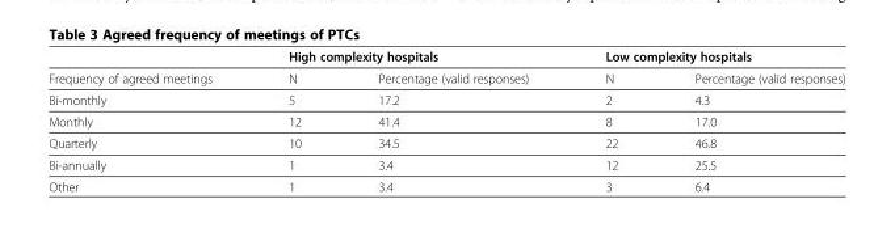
<table><thead><tr><td rowspan="2">Frequency of agreed meetings</td><td colspan="2">High complexity hospitals</td><td colspan="2">Low complexity hospitals</td></tr><tr><td>N</td><td>Percentage (valid responses)</td><td>N</td><td>Percentage (valid responses)</td></tr></thead><tbody><tr><td>Bi-monthly</td><td>5</td><td>17.2</td><td>2</td><td>4.3</td></tr><tr><td>Monthly</td><td>12</td><td>41.4</td><td>8</td><td>17.0</td></tr><tr><td>Quarterly</td><td>10</td><td>34.5</td><td>22</td><td>46.8</td></tr><tr><td>Bi-annually</td><td>1</td><td>3.4</td><td>12</td><td>25.5</td></tr><tr><td>Other</td><td>1</td><td>3.4</td><td>3</td><td>6.4</td></tr></tbody></table>